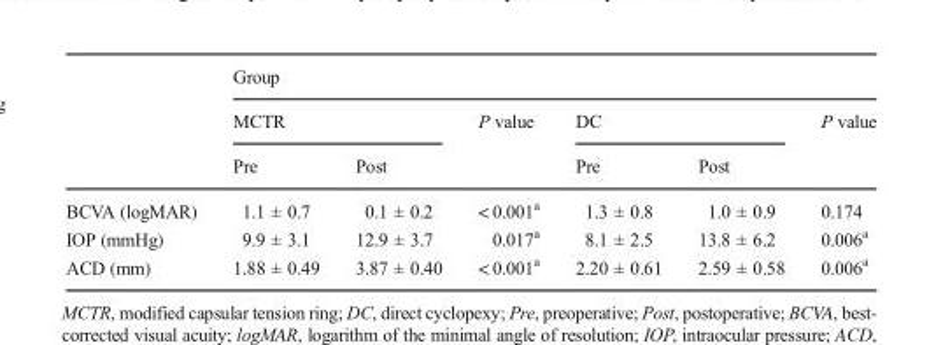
<table><thead><tr><td rowspan="3"></td><td colspan="6">Group</td></tr><tr><td colspan="2">MCTR</td><td rowspan="2">P value</td><td colspan="2">DC</td><td rowspan="2">P value</td></tr><tr><td>Pre</td><td>Post</td><td>Pre</td><td>Post</td></tr></thead><tbody><tr><td>BCVA (logMAR)</td><td>1.1 ± 0.7</td><td>0.1 ± 0.2</td><td>&lt; 0.001<sup>a</sup></td><td>1.3 ± 0.8</td><td>1.0 ± 0.9</td><td>0.174</td></tr><tr><td>IOP (mmHg)</td><td>9.9 ± 3.1</td><td>12.9 ± 3.7</td><td>0.017<sup>a</sup></td><td>8.1 ± 2.5</td><td>13.8 ± 6.2</td><td>0.006<sup>a</sup></td></tr><tr><td>ACD (mm)</td><td>1.88 ± 0.49</td><td>3.87 ± 0.40</td><td>&lt; 0.001<sup>a</sup></td><td>2.20 ± 0.61</td><td>2.59 ± 0.58</td><td>0.006<sup>a</sup></td></tr></tbody></table>